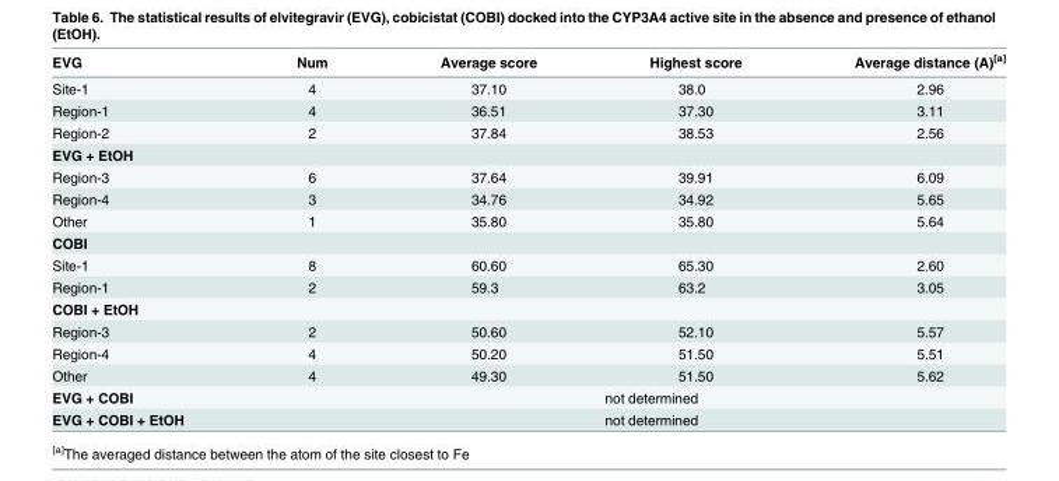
<table><thead><tr><td>EVG</td><td>Num</td><td>Average score</td><td>Highest score</td><td>Average distance (A)<sup>[a]</sup></td></tr></thead><tbody><tr><td>Site-1</td><td>4</td><td>37.10</td><td>38.0</td><td>2.96</td></tr><tr><td>Region-1</td><td>4</td><td>36.51</td><td>37.30</td><td>3.11</td></tr><tr><td>Region-2</td><td>2</td><td>37.84</td><td>38.53</td><td>2.56</td></tr><tr><td colspan="5">EVG + EtOH</td></tr><tr><td>Region-3</td><td>6</td><td>37.64</td><td>39.91</td><td>6.09</td></tr><tr><td>Region-4</td><td>3</td><td>34.76</td><td>34.92</td><td>5.65</td></tr><tr><td>Other</td><td>1</td><td>35.80</td><td>35.80</td><td>5.64</td></tr><tr><td colspan="5">COBI</td></tr><tr><td>Site-1</td><td>8</td><td>60.60</td><td>65.30</td><td>2.60</td></tr><tr><td>Region-1</td><td>2</td><td>59.3</td><td>63.2</td><td>3.05</td></tr><tr><td colspan="5">COBI + EtOH</td></tr><tr><td>Region-3</td><td>2</td><td>50.60</td><td>52.10</td><td>5.57</td></tr><tr><td>Region-4</td><td>4</td><td>50.20</td><td>51.50</td><td>5.51</td></tr><tr><td>Other</td><td>4</td><td>49.30</td><td>51.50</td><td>5.62</td></tr><tr><td>EVG + COBI</td><td colspan="4">not determined</td></tr><tr><td>EVG + COBI + EtOH</td><td colspan="4">not determined</td></tr></tbody></table>